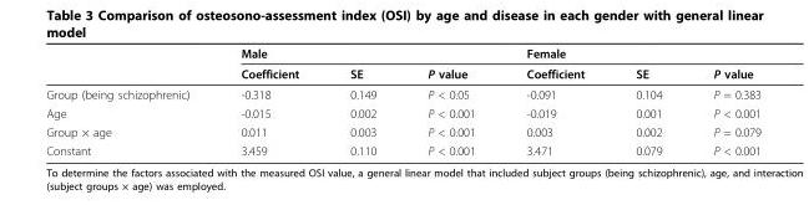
<table><thead><tr><td rowspan="2"></td><td colspan="3">Male</td><td colspan="3">Female</td></tr><tr><td>Coefficient</td><td>SE</td><td>P value</td><td>Coefficient</td><td>SE</td><td>P value</td></tr></thead><tbody><tr><td>Group (being schizophrenic)</td><td>-0.318</td><td>0.149</td><td>P &lt; 0.05</td><td>-0.091</td><td>0.104</td><td>P = 0.383</td></tr><tr><td>Age</td><td>-0.015</td><td>0.002</td><td>P &lt; 0.001</td><td>-0.019</td><td>0.001</td><td>P &lt; 0.001</td></tr><tr><td>Group × age</td><td>0.011</td><td>0.003</td><td>P &lt; 0.001</td><td>0.003</td><td>0.002</td><td>P = 0.079</td></tr><tr><td>Constant</td><td>3.459</td><td>0.110</td><td>P &lt; 0.001</td><td>3.471</td><td>0.079</td><td>P &lt; 0.001</td></tr></tbody></table>